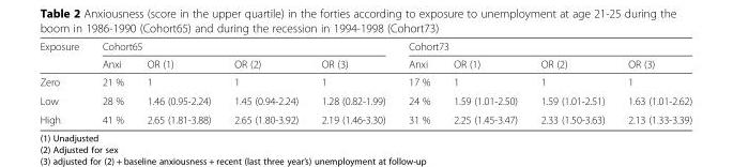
<table><thead><tr><td rowspan="2">Exposure</td><td colspan="4">Cohort65</td><td colspan="4">Cohort73</td></tr><tr><td>Anxi</td><td>OR (1)</td><td>OR (2)</td><td>OR (3)</td><td>Anxi</td><td>OR (1)</td><td>OR (2)</td><td>OR (3)</td></tr></thead><tbody><tr><td>Zero</td><td>21 %</td><td>1</td><td>1</td><td>1</td><td>17 %</td><td>1</td><td>1</td><td>1</td></tr><tr><td>Low</td><td>28 %</td><td>1.46 (0.95-2.24)</td><td>1.45 (0.94-2.24)</td><td>1.28 (0.82-1.99)</td><td>24 %</td><td>1.59 (1.01-2.50)</td><td>1.59 (1.01-2.51)</td><td>1.63 (1.01-2.62)</td></tr><tr><td>High</td><td>41 %</td><td>2.65 (1.81-3.88)</td><td>2.65 (1.80-3.92)</td><td>2.19 (1.46-3.30)</td><td>31 %</td><td>2.25 (1.45-3.47)</td><td>2.33 (1.50-3.63)</td><td>2.13 (1.33-3.39)</td></tr></tbody></table>